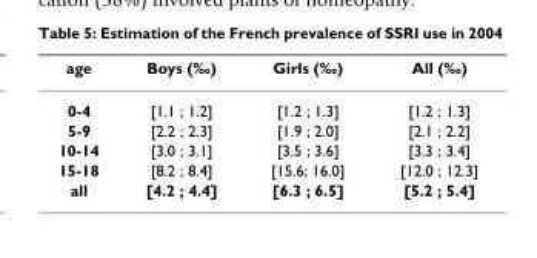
<table><thead><tr><td>age</td><td>Boys (‰)</td><td>Girls (‰)</td><td>All (‰)</td></tr></thead><tbody><tr><td>0-4</td><td>[1.1 ; 1.2]</td><td>[1.2 ; 1.3]</td><td>[1.2 ; 1.3]</td></tr><tr><td>5-9</td><td>[2.2 ; 2.3]</td><td>[1.9 ; 2.0]</td><td>[2.1 ; 2.2]</td></tr><tr><td>10-14</td><td>[3.0 ; 3.1]</td><td>[3.5 ; 3.6]</td><td>[3.3 ; 3.4]</td></tr><tr><td>15-18</td><td>[8.2 ; 8.4]</td><td>[15.6; 16.0]</td><td>[12.0 ; 12.3]</td></tr><tr><td>all</td><td>[4.2 ; 4.4]</td><td>[6.3 ; 6.5]</td><td>[5.2 ; 5.4]</td></tr></tbody></table>